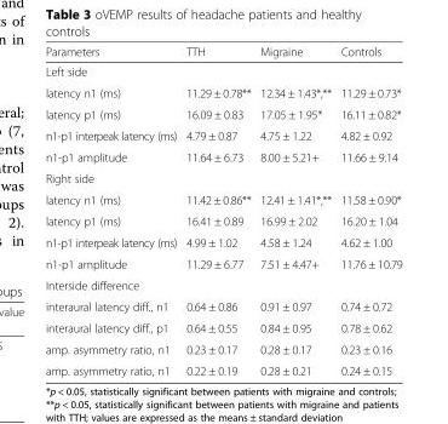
<table><thead><tr><td>Parameters</td><td>TTH</td><td>Migraine</td><td>Controls</td></tr></thead><tbody><tr><td colspan="4">Left side</td></tr><tr><td>latency n1 (ms)</td><td>11.29 ± 0.78**</td><td>12.34 ± 1.43*,**</td><td>11.29 ± 0.73*</td></tr><tr><td>latency p1 (ms)</td><td>16.09 ± 0.83</td><td>17.05 ± 1.95*</td><td>16.11 ± 0.82*</td></tr><tr><td>n1-p1 interpeak latency (ms)</td><td>4.79 ± 0.87</td><td>4.75 ± 1.22</td><td>4.82 ± 0.92</td></tr><tr><td>n1-p1 amplitude</td><td>11.64 ± 6.73</td><td>8.00 ± 5.21+</td><td>11.66 ± 9.14</td></tr><tr><td colspan="4">Right side</td></tr><tr><td>latency n1 (ms)</td><td>11.42 ± 0.86**</td><td>12.41 ± 1.41*,**</td><td>11.58 ± 0.90*</td></tr><tr><td>latency p1 (ms)</td><td>16.41 ± 0.89</td><td>16.99 ± 2.02</td><td>16.20 ± 1.04</td></tr><tr><td>n1-p1 interpeak latency (ms)</td><td>4.99 ± 1.02</td><td>4.58 ± 1.24</td><td>4.62 ± 1.00</td></tr><tr><td>n1-p1 amplitude</td><td>11.29 ± 6.77</td><td>7.51 ± 4.47+</td><td>11.76 ± 10.79</td></tr><tr><td colspan="4">Interside difference</td></tr><tr><td>interaural latency diff., n1</td><td>0.64 ± 0.86</td><td>0.91 ± 0.97</td><td>0.74 ± 0.72</td></tr><tr><td>interaural latency diff., p1</td><td>0.64 ± 0.55</td><td>0.84 ± 0.95</td><td>0.78 ± 0.62</td></tr><tr><td>amp. asymmetry ratio, n1</td><td>0.23 ± 0.17</td><td>0.28 ± 0.17</td><td>0.23 ± 0.16</td></tr><tr><td>amp. asymmetry ratio, n1</td><td>0.22 ± 0.19</td><td>0.28 ± 0.21</td><td>0.24 ± 0.15</td></tr></tbody></table>